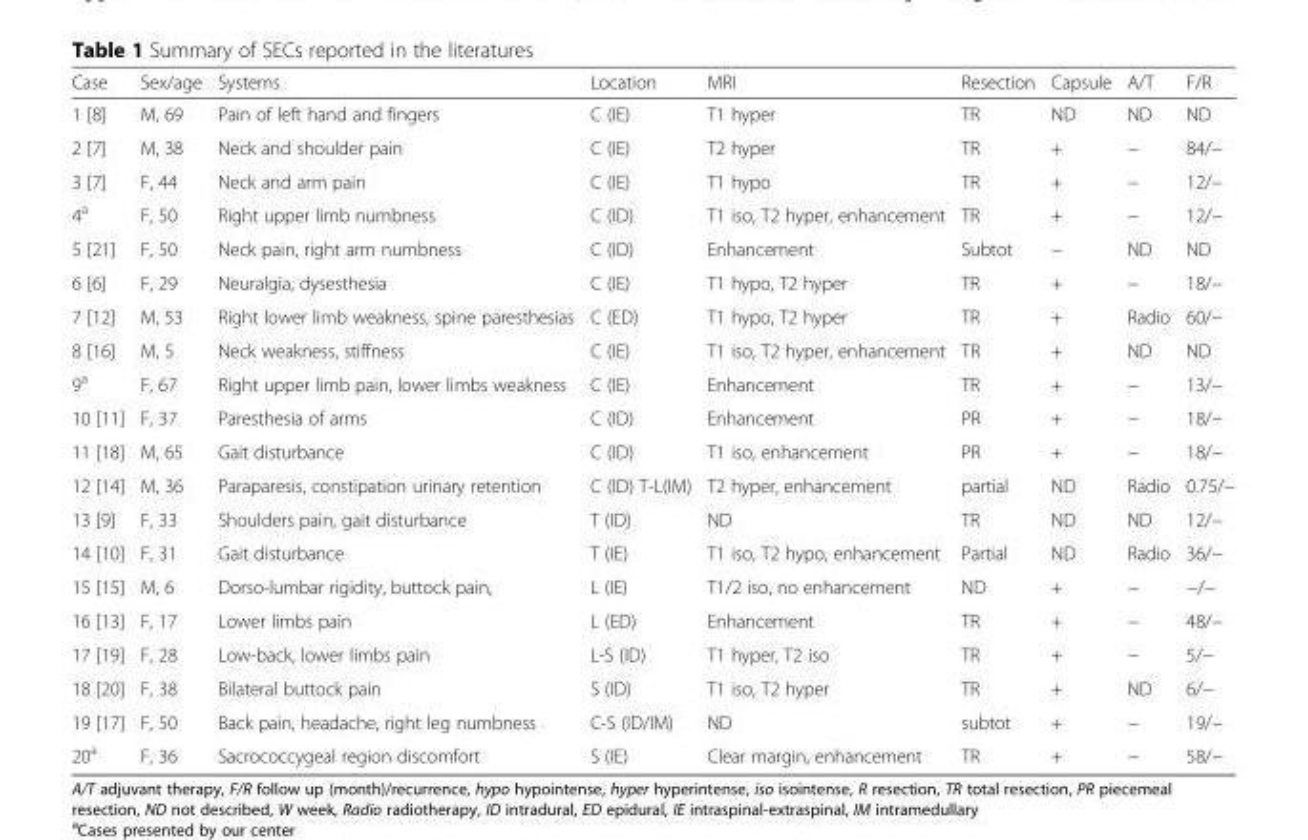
<table><thead><tr><td>Case</td><td>Sex/age</td><td>Systems</td><td>Location</td><td>MRI</td><td>Resection</td><td>Capsule</td><td>A/T</td><td>F/R</td></tr></thead><tbody><tr><td>1 [8]</td><td>M, 69</td><td>Pain of left hand and fingers</td><td>C (IE)</td><td>T1 hyper</td><td>TR</td><td>ND</td><td>ND</td><td>ND</td></tr><tr><td>2 [7]</td><td>M, 38</td><td>Neck and shoulder pain</td><td>C (IE)</td><td>T2 hyper</td><td>TR</td><td>+</td><td>−</td><td>84/−</td></tr><tr><td>3 [7]</td><td>F, 44</td><td>Neck and arm pain</td><td>C (IE)</td><td>T1 hypo</td><td>TR</td><td>+</td><td>−</td><td>12/−</td></tr><tr><td>4<sup>a</sup></td><td>F, 50</td><td>Right upper limb numbness</td><td>C (ID)</td><td>T1 iso, T2 hyper, enhancement</td><td>TR</td><td>+</td><td>−</td><td>12/−</td></tr><tr><td>5 [21]</td><td>F, 50</td><td>Neck pain, right arm numbness</td><td>C (ID)</td><td>Enhancement</td><td>Subtot</td><td>−</td><td>ND</td><td>ND</td></tr><tr><td>6 [6]</td><td>F, 29</td><td>Neuralgia, dysesthesia</td><td>C (IE)</td><td>T1 hypo, T2 hyper</td><td>TR</td><td>+</td><td>−</td><td>18/−</td></tr><tr><td>7 [12]</td><td>M, 53</td><td>Right lower limb weakness, spine paresthesias</td><td>C (ED)</td><td>T1 hypo, T2 hyper</td><td>TR</td><td>+</td><td>Radio</td><td>60/−</td></tr><tr><td>8 [16]</td><td>M, 5</td><td>Neck weakness, stiffness</td><td>C (IE)</td><td>T1 iso, T2 hyper, enhancement</td><td>TR</td><td>+</td><td>ND</td><td>ND</td></tr><tr><td>9<sup>a</sup></td><td>F, 67</td><td>Right upper limb pain, lower limbs weakness</td><td>C (IE)</td><td>Enhancement</td><td>TR</td><td>+</td><td>−</td><td>13/−</td></tr><tr><td>10 [11]</td><td>F, 37</td><td>Paresthesia of arms</td><td>C (ID)</td><td>Enhancement</td><td>PR</td><td>+</td><td>−</td><td>18/−</td></tr><tr><td>11 [18]</td><td>M, 65</td><td>Gait disturbance</td><td>C (ID)</td><td>T1 iso, enhancement</td><td>PR</td><td>+</td><td>−</td><td>18/−</td></tr><tr><td>12 [14]</td><td>M, 36</td><td>Paraparesis, constipation urinary retention</td><td>C (ID) T-L(IM)</td><td>T2 hyper, enhancement</td><td>partial</td><td>ND</td><td>Radio</td><td>0.75/−</td></tr><tr><td>13 [9]</td><td>F, 33</td><td>Shoulders pain, gait disturbance</td><td>T (ID)</td><td>ND</td><td>TR</td><td>ND</td><td>ND</td><td>12/−</td></tr><tr><td>14 [10]</td><td>F, 31</td><td>Gait disturbance</td><td>T (IE)</td><td>T1 iso, T2 hypo, enhancement</td><td>Partial</td><td>ND</td><td>Radio</td><td>36/−</td></tr><tr><td>15 [15]</td><td>M, 6</td><td>Dorso-lumbar rigidity, buttock pain,</td><td>L (IE)</td><td>T1/2 iso, no enhancement</td><td>ND</td><td>+</td><td>−</td><td>−/−</td></tr><tr><td>16 [13]</td><td>F, 17</td><td>Lower limbs pain</td><td>L (ED)</td><td>Enhancement</td><td>TR</td><td>+</td><td>−</td><td>48/−</td></tr><tr><td>17 [19]</td><td>F, 28</td><td>Low-back, lower limbs pain</td><td>L-S (ID)</td><td>T1 hyper, T2 iso</td><td>TR</td><td>+</td><td>−</td><td>5/−</td></tr><tr><td>18 [20]</td><td>F, 38</td><td>Bilateral buttock pain</td><td>S (ID)</td><td>T1 iso, T2 hyper</td><td>TR</td><td>+</td><td>ND</td><td>6/−</td></tr><tr><td>19 [17]</td><td>F, 50</td><td>Back pain, headache, right leg numbness</td><td>C-S (ID/IM)</td><td>ND</td><td>subtot</td><td>+</td><td>−</td><td>19/−</td></tr><tr><td>20<sup>a</sup></td><td>F, 36</td><td>Sacrococcygeal region discomfort</td><td>S (IE)</td><td>Clear margin, enhancement</td><td>TR</td><td>+</td><td>−</td><td>58/−</td></tr></tbody></table>